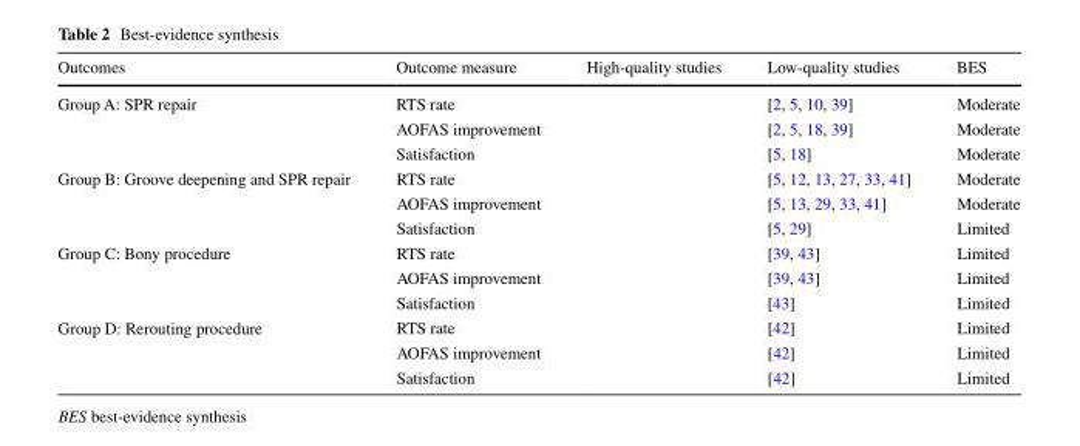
<table><thead><tr><td>Outcomes</td><td>Outcome measure</td><td>High-quality studies</td><td>Low-quality studies</td><td>BES</td></tr></thead><tbody><tr><td rowspan="3">Group A: SPR repair</td><td>RTS rate</td><td></td><td>[2, 5, 10, 39]</td><td>Moderate</td></tr><tr><td>AOFAS improvement</td><td></td><td>[2, 5, 18, 39]</td><td>Moderate</td></tr><tr><td>Satisfaction</td><td></td><td>[5, 18]</td><td>Moderate</td></tr><tr><td rowspan="3">Group B: Groove deepening and SPR repair</td><td>RTS rate</td><td></td><td>[5, 12, 13, 27, 33, 41]</td><td>Moderate</td></tr><tr><td>AOFAS improvement</td><td></td><td>[5, 13, 29, 33, 41]</td><td>Moderate</td></tr><tr><td>Satisfaction</td><td></td><td>[5, 29]</td><td>Limited</td></tr><tr><td rowspan="3">Group C: Bony procedure</td><td>RTS rate</td><td></td><td>[39, 43]</td><td>Limited</td></tr><tr><td>AOFAS improvement</td><td></td><td>[39, 43]</td><td>Limited</td></tr><tr><td>Satisfaction</td><td></td><td>[43]</td><td>Limited</td></tr><tr><td rowspan="3">Group D: Rerouting procedure</td><td>RTS rate</td><td></td><td>[42]</td><td>Limited</td></tr><tr><td>AOFAS improvement</td><td></td><td>[42]</td><td>Limited</td></tr><tr><td>Satisfaction</td><td></td><td>[42]</td><td>Limited</td></tr></tbody></table>